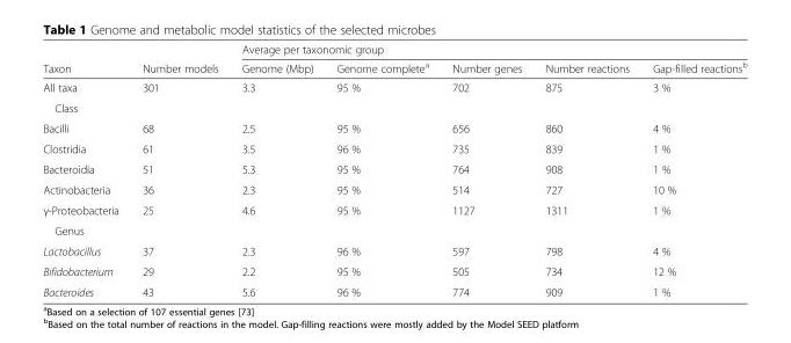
<table><thead><tr><td rowspan="2">Taxon</td><td rowspan="2">Number models</td><td colspan="5">Average per taxonomic group</td></tr><tr><td>Genome (Mbp)</td><td>Genome complete<sup>a</sup></td><td>Number genes</td><td>Number reactions</td><td>Gap-filled reactions<sup>b</sup></td></tr></thead><tbody><tr><td>All taxa</td><td>301</td><td>3.3</td><td>95 %</td><td>702</td><td>875</td><td>3 %</td></tr><tr><td colspan="7">Class</td></tr><tr><td>Bacilli</td><td>68</td><td>2.5</td><td>95 %</td><td>656</td><td>860</td><td>4 %</td></tr><tr><td>Clostridia</td><td>61</td><td>3.5</td><td>96 %</td><td>735</td><td>839</td><td>1 %</td></tr><tr><td>Bacteroidia</td><td>51</td><td>5.3</td><td>95 %</td><td>764</td><td>908</td><td>1 %</td></tr><tr><td>Actinobacteria</td><td>36</td><td>2.3</td><td>95 %</td><td>514</td><td>727</td><td>10 %</td></tr><tr><td>γ-Proteobacteria</td><td>25</td><td>4.6</td><td>95 %</td><td>1127</td><td>1311</td><td>1 %</td></tr><tr><td colspan="7">Genus</td></tr><tr><td>Lactobacillus</td><td>37</td><td>2.3</td><td>96 %</td><td>597</td><td>798</td><td>4 %</td></tr><tr><td>Bifidobacterium</td><td>29</td><td>2.2</td><td>95 %</td><td>505</td><td>734</td><td>12 %</td></tr><tr><td>Bacteroides</td><td>43</td><td>5.6</td><td>96 %</td><td>774</td><td>909</td><td>1 %</td></tr></tbody></table>